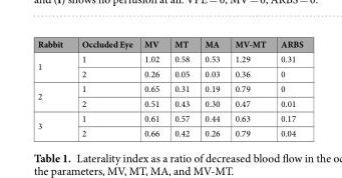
<table><thead><tr><td>Rabbit</td><td>Occluded Eye</td><td>MV</td><td>MT</td><td>MA</td><td>MV-MT</td><td>ARBS</td></tr></thead><tbody><tr><td rowspan="2">1</td><td>1</td><td>1.02</td><td>0.58</td><td>0.53</td><td>1.29</td><td>0.31</td></tr><tr><td>2</td><td>0.26</td><td>0.05</td><td>0.03</td><td>0.36</td><td>0</td></tr><tr><td rowspan="2">2</td><td>1</td><td>0.65</td><td>0.31</td><td>0.19</td><td>0.79</td><td>0</td></tr><tr><td>2</td><td>0.51</td><td>0.43</td><td>0.30</td><td>0.47</td><td>0.01</td></tr><tr><td rowspan="2">3</td><td>1</td><td>0.61</td><td>0.57</td><td>0.44</td><td>0.63</td><td>0.17</td></tr><tr><td>2</td><td>0.66</td><td>0.42</td><td>0.26</td><td>0.79</td><td>0.04</td></tr></tbody></table>